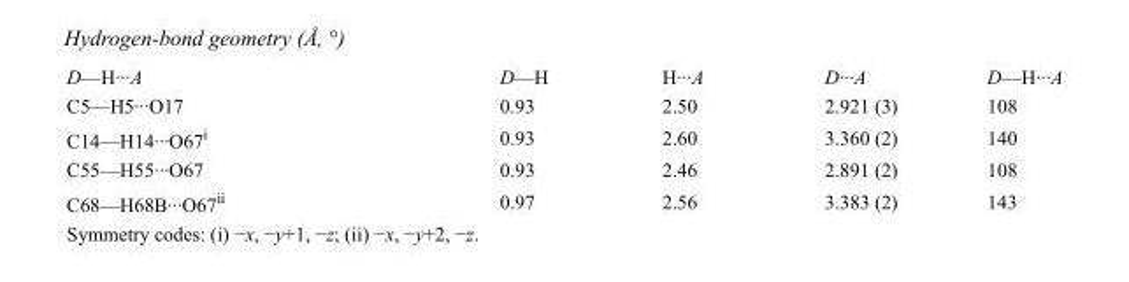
<table><tbody><tr><td>D—H···A</td><td>D—H</td><td>H···A</td><td>D···A</td><td>D—H···A</td></tr><tr><td>C5—H5···O17</td><td>0.93</td><td>2.50</td><td>2.921 (3)</td><td>108</td></tr><tr><td>C14—H14···O67<sup>i</sup></td><td>0.93</td><td>2.60</td><td>3.360 (2)</td><td>140</td></tr><tr><td>C55—H55···O67</td><td>0.93</td><td>2.46</td><td>2.891 (2)</td><td>108</td></tr><tr><td>C68—H68B···O67<sup>ii</sup></td><td>0.97</td><td>2.56</td><td>3.383 (2)</td><td>143</td></tr></tbody></table>